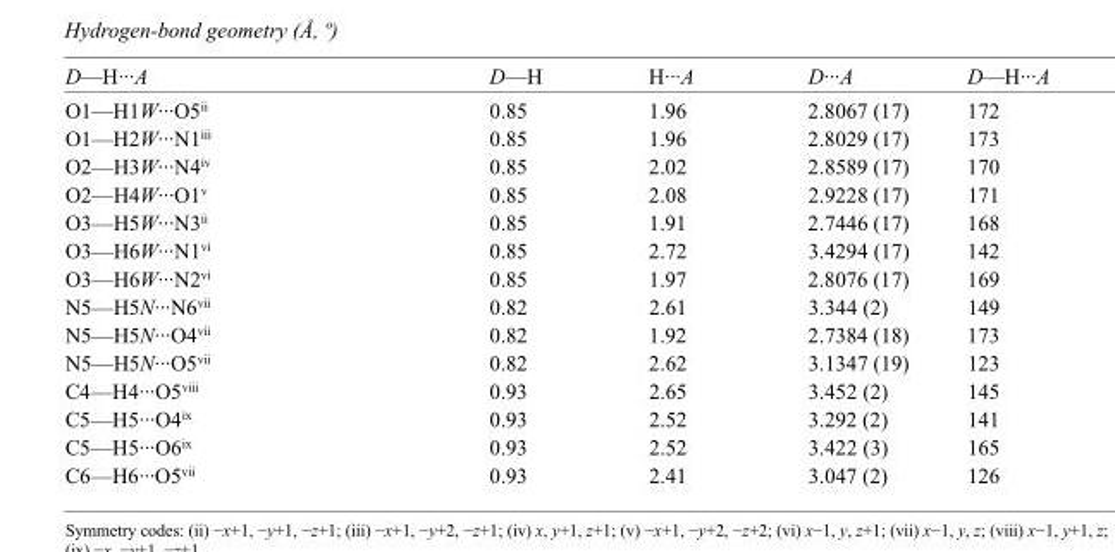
<table><tbody><tr><td>D—H···A</td><td>D—H</td><td>H···A</td><td>D···A</td><td>D—H···A</td></tr><tr><td>O1—H1W···O5<sup>ii</sup></td><td>0.85</td><td>1.96</td><td>2.8067 (17)</td><td>172</td></tr><tr><td>O1—H2W···N1<sup>iii</sup></td><td>0.85</td><td>1.96</td><td>2.8029 (17)</td><td>173</td></tr><tr><td>O2—H3W···N4<sup>iv</sup></td><td>0.85</td><td>2.02</td><td>2.8589 (17)</td><td>170</td></tr><tr><td>O2—H4W···O1<sup>v</sup></td><td>0.85</td><td>2.08</td><td>2.9228 (17)</td><td>171</td></tr><tr><td>O3—H5W···N3<sup>ii</sup></td><td>0.85</td><td>1.91</td><td>2.7446 (17)</td><td>168</td></tr><tr><td>O3—H6W···N1<sup>vi</sup></td><td>0.85</td><td>2.72</td><td>3.4294 (17)</td><td>142</td></tr><tr><td>O3—H6W···N2<sup>vi</sup></td><td>0.85</td><td>1.97</td><td>2.8076 (17)</td><td>169</td></tr><tr><td>N5—H5N···N6<sup>vii</sup></td><td>0.82</td><td>2.61</td><td>3.344 (2)</td><td>149</td></tr><tr><td>N5—H5N···O4<sup>vii</sup></td><td>0.82</td><td>1.92</td><td>2.7384 (18)</td><td>173</td></tr><tr><td>N5—H5N···O5<sup>vii</sup></td><td>0.82</td><td>2.62</td><td>3.1347 (19)</td><td>123</td></tr><tr><td>C4—H4···O5<sup>viii</sup></td><td>0.93</td><td>2.65</td><td>3.452 (2)</td><td>145</td></tr><tr><td>C5—H5···O4<sup>ix</sup></td><td>0.93</td><td>2.52</td><td>3.292 (2)</td><td>141</td></tr><tr><td>C5—H5···O6<sup>ix</sup></td><td>0.93</td><td>2.52</td><td>3.422 (3)</td><td>165</td></tr><tr><td>C6—H6···O5<sup>vii</sup></td><td>0.93</td><td>2.41</td><td>3.047 (2)</td><td>126</td></tr></tbody></table>